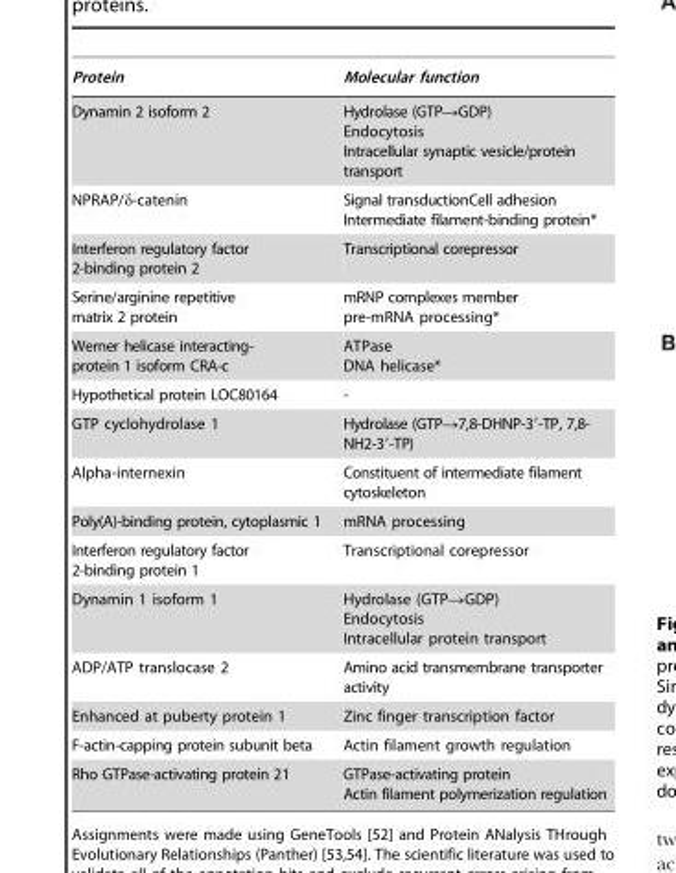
<table><thead><tr><td>Protein</td><td>Molecular function</td></tr></thead><tbody><tr><td>Dynamin 2 isoform 2</td><td>Hydrolase (GTP→GDP) Endocytosis Intracellular synaptic vesicle/protein transport</td></tr><tr><td>NPRAP/δ-catenin</td><td>Signal transductionCell adhesion Intermediate filament-binding protein*</td></tr><tr><td>Interferon regulatory factor 2-binding protein 2</td><td>Transcriptional corepressor</td></tr><tr><td>Serine/arginine repetitive matrix 2 protein</td><td>mRNP complexes member pre-mRNA processing*</td></tr><tr><td>Werner helicase interacting- protein 1 isoform CRA-c</td><td>ATPase DNA helicase*</td></tr><tr><td>Hypothetical protein LOC80164</td><td>-</td></tr><tr><td>GTP cyclohydrolase 1</td><td>Hydrolase (GTP→7,8-DHNP-3′-TP, 7,8- NH2-3′-TP)</td></tr><tr><td>Alpha-internexin</td><td>Constituent of intermediate filament cytoskeleton</td></tr><tr><td>Poly(A)-binding protein, cytoplasmic 1</td><td>mRNA processing</td></tr><tr><td>Interferon regulatory factor 2-binding protein 1</td><td>Transcriptional corepressor</td></tr><tr><td>Dynamin 1 isoform 1</td><td>Hydrolase (GTP→GDP) Endocytosis Intracellular protein transport</td></tr><tr><td>ADP/ATP translocase 2</td><td>Amino acid transmembrane transporter activity</td></tr><tr><td>Enhanced at puberty protein 1</td><td>Zinc finger transcription factor</td></tr><tr><td>F-actin-capping protein subunit beta</td><td>Actin filament growth regulation</td></tr><tr><td>Rho GTPase-activating protein 21</td><td>GTPase-activating protein Actin filament polymerization regulation</td></tr></tbody></table>